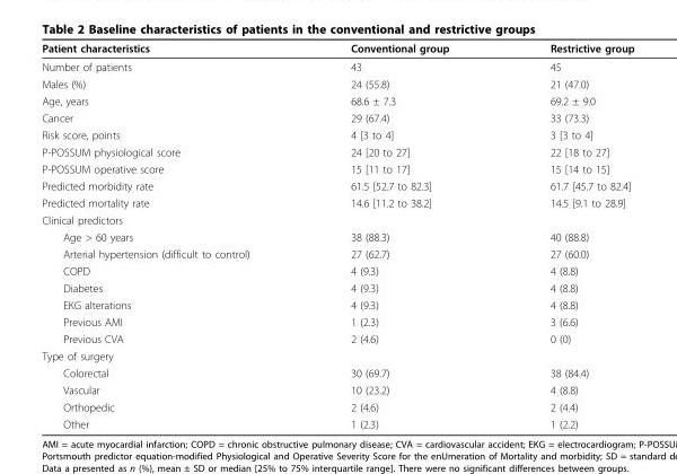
<table><thead><tr><td>Patient characteristics</td><td>Conventional group</td><td>Restrictive group</td></tr></thead><tbody><tr><td>Number of patients</td><td>43</td><td>45</td></tr><tr><td>Males (%)</td><td>24 (55.8)</td><td>21 (47.0)</td></tr><tr><td>Age, years</td><td>68.6 ± 7.3</td><td>69.2 ± 9.0</td></tr><tr><td>Cancer</td><td>29 (67.4)</td><td>33 (73.3)</td></tr><tr><td>Risk score, points</td><td>4 [3 to 4]</td><td>3 [3 to 4]</td></tr><tr><td>P-POSSUM physiological score</td><td>24 [20 to 27]</td><td>22 [18 to 27]</td></tr><tr><td>P-POSSUM operative score</td><td>15 [11 to 17]</td><td>15 [14 to 15]</td></tr><tr><td>Predicted morbidity rate</td><td>61.5 [52.7 to 82.3]</td><td>61.7 [45.7 to 82.4]</td></tr><tr><td>Predicted mortality rate</td><td>14.6 [11.2 to 38.2]</td><td>14.5 [9.1 to 28.9]</td></tr><tr><td colspan="3">Clinical predictors</td></tr><tr><td>Age &gt; 60 years</td><td>38 (88.3)</td><td>40 (88.8)</td></tr><tr><td>Arterial hypertension (difficult to control)</td><td>27 (62.7)</td><td>27 (60.0)</td></tr><tr><td>COPD</td><td>4 (9.3)</td><td>4 (8.8)</td></tr><tr><td>Diabetes</td><td>4 (9.3)</td><td>4 (8.8)</td></tr><tr><td>EKG alterations</td><td>4 (9.3)</td><td>4 (8.8)</td></tr><tr><td>Previous AMI</td><td>1 (2.3)</td><td>3 (6.6)</td></tr><tr><td>Previous CVA</td><td>2 (4.6)</td><td>0 (0)</td></tr><tr><td colspan="3">Type of surgery</td></tr><tr><td>Colorectal</td><td>30 (69.7)</td><td>38 (84.4)</td></tr><tr><td>Vascular</td><td>10 (23.2)</td><td>4 (8.8)</td></tr><tr><td>Orthopedic</td><td>2 (4.6)</td><td>2 (4.4)</td></tr><tr><td>Other</td><td>1 (2.3)</td><td>1 (2.2)</td></tr></tbody></table>